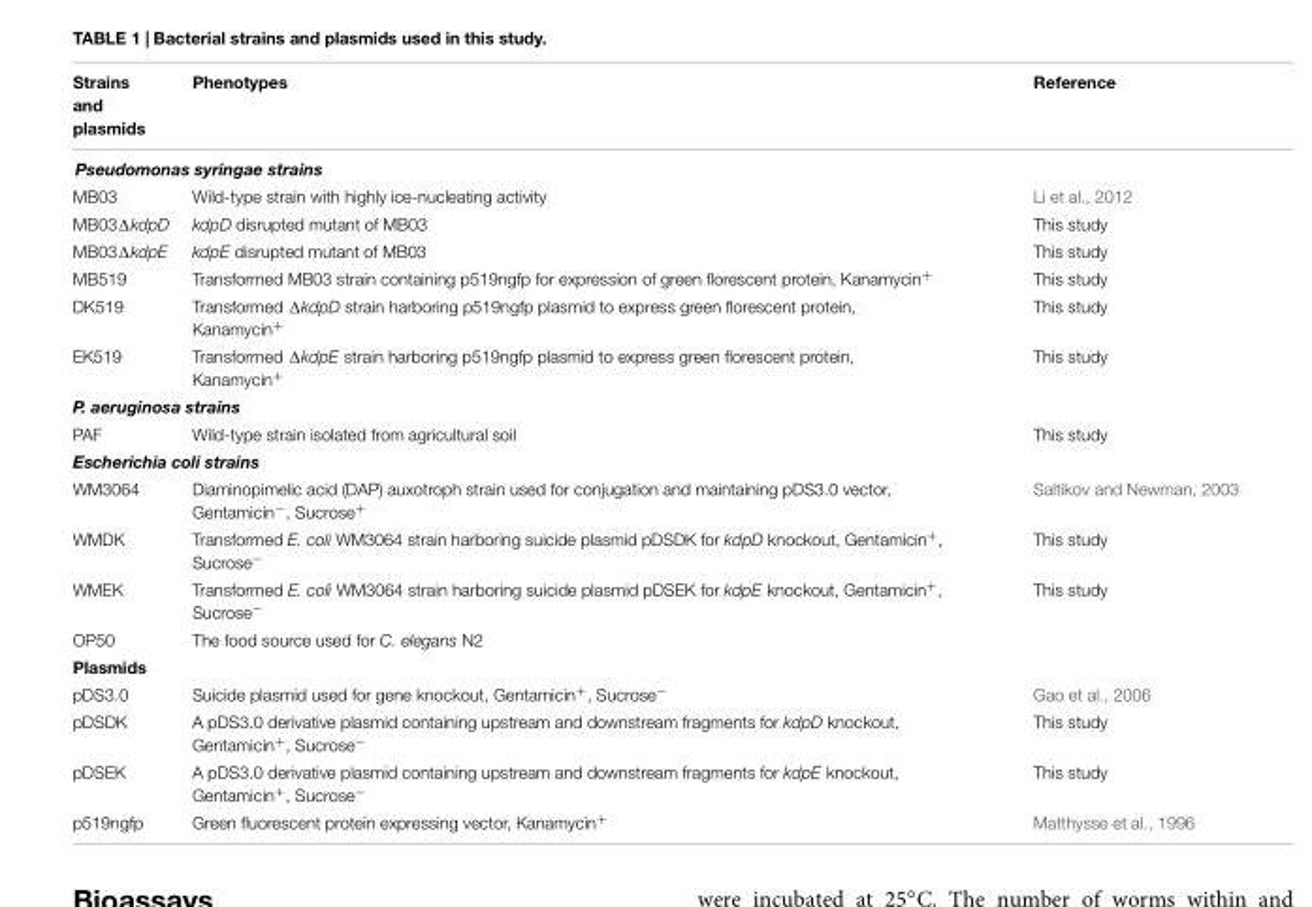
<table><thead><tr><td>Strains and plasmids</td><td>Phenotypes</td><td>Reference</td></tr></thead><tbody><tr><td colspan="3">Pseudomonas syringae strains</td></tr><tr><td>MB03</td><td>Wild-type strain with highly ice-nucleating activity</td><td>Li et al., 2012</td></tr><tr><td>MB03ΔkdpD</td><td>kdpD disrupted mutant of MB03</td><td>This study</td></tr><tr><td>MB03ΔkdpE</td><td>kdpE disrupted mutant of MB03</td><td>This study</td></tr><tr><td>MB519</td><td>Transformed MB03 strain containing p519ngfp for expression of green florescent protein, Kanamycin<sup>+</sup></td><td>This study</td></tr><tr><td>DK519</td><td>Transformed ΔkdpD strain harboring p519ngfp plasmid to express green florescent protein, Kanamycin<sup>+</sup></td><td>This study</td></tr><tr><td>EK519</td><td>Transformed ΔkdpE strain harboring p519ngfp plasmid to express green florescent protein, Kanamycin<sup>+</sup></td><td>This study</td></tr><tr><td colspan="3">P. aeruginosa strains</td></tr><tr><td>PAF</td><td>Wild-type strain isolated from agricultural soil</td><td>This study</td></tr><tr><td colspan="3">Escherichia coli strains</td></tr><tr><td>WM3064</td><td>Diaminopimelic acid (DAP) auxotroph strain used for conjugation and maintaining pDS3.0 vector, Gentamicin<sup>−</sup>, Sucrose<sup>+</sup></td><td>Saltikov and Newman, 2003</td></tr><tr><td>WMDK</td><td>Transformed E. coli WM3064 strain harboring suicide plasmid pDSDK for kdpD knockout, Gentamicin<sup>+</sup>, Sucrose<sup>−</sup></td><td>This study</td></tr><tr><td>WMEK</td><td>Transformed E. coli WM3064 strain harboring suicide plasmid pDSEK for kdpE knockout, Gentamicin<sup>+</sup>, Sucrose<sup>−</sup></td><td>This study</td></tr><tr><td>OP50</td><td>The food source used for C. elegans N2</td><td></td></tr><tr><td colspan="3">Plasmids</td></tr><tr><td>pDS3.0</td><td>Suicide plasmid used for gene knockout, Gentamicin<sup>+</sup>, Sucrose<sup>−</sup></td><td>Gao et al., 2006</td></tr><tr><td>pDSDK</td><td>A pDS3.0 derivative plasmid containing upstream and downstream fragments for kdpD knockout, Gentamicin<sup>+</sup>, Sucrose<sup>−</sup></td><td>This study</td></tr><tr><td>pDSEK</td><td>A pDS3.0 derivative plasmid containing upstream and downstream fragments for kdpE knockout, Gentamicin<sup>+</sup>, Sucrose<sup>−</sup></td><td>This study</td></tr><tr><td>p519ngfp</td><td>Green fluorescent protein expressing vector, Kanamycin<sup>+</sup></td><td>Matthysse et al., 1996</td></tr></tbody></table>